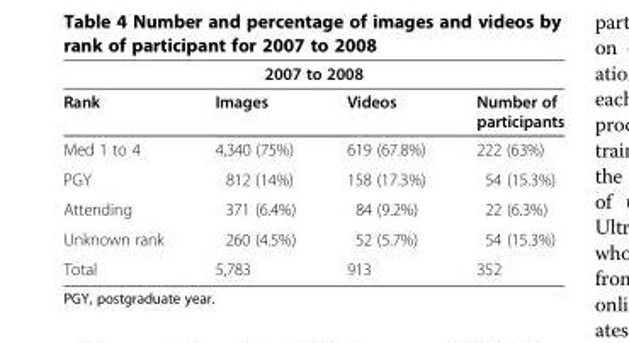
<table><thead><tr><td colspan="4">2007 to 2008</td></tr><tr><td>Rank</td><td>Images</td><td>Videos</td><td>Number of participants</td></tr></thead><tbody><tr><td>Med 1 to 4</td><td>4,340 (75%)</td><td>619 (67.8%)</td><td>222 (63%)</td></tr><tr><td>PGY</td><td>812 (14%)</td><td>158 (17.3%)</td><td>54 (15.3%)</td></tr><tr><td>Attending</td><td>371 (6.4%)</td><td>84 (9.2%)</td><td>22 (6.3%)</td></tr><tr><td>Unknown rank</td><td>260 (4.5%)</td><td>52 (5.7%)</td><td>54 (15.3%)</td></tr><tr><td>Total</td><td>5,783</td><td>913</td><td>352</td></tr></tbody></table>